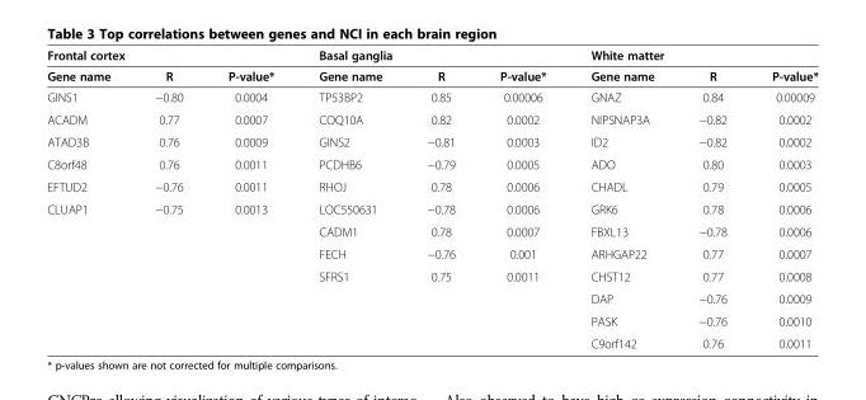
<table><thead><tr><td colspan="3">Frontal cortex</td><td colspan="3">Basal ganglia</td><td colspan="3">White matter</td></tr><tr><td>Gene name</td><td>R</td><td>P-value*</td><td>Gene name</td><td>R</td><td>P-value*</td><td>Gene name</td><td>R</td><td>P-value*</td></tr></thead><tbody><tr><td>GINS1</td><td>−0.80</td><td>0.0004</td><td>TP53BP2</td><td>0.85</td><td>0.00006</td><td>GNAZ</td><td>0.84</td><td>0.00009</td></tr><tr><td>ACADM</td><td>0.77</td><td>0.0007</td><td>COQ10A</td><td>0.82</td><td>0.0002</td><td>NIPSNAP3A</td><td>−0.82</td><td>0.0002</td></tr><tr><td>ATAD3B</td><td>0.76</td><td>0.0009</td><td>GINS2</td><td>−0.81</td><td>0.0003</td><td>ID2</td><td>−0.82</td><td>0.0002</td></tr><tr><td>C8orf48</td><td>0.76</td><td>0.0011</td><td>PCDHB6</td><td>−0.79</td><td>0.0005</td><td>ADO</td><td>0.80</td><td>0.0003</td></tr><tr><td>EFTUD2</td><td>−0.76</td><td>0.0011</td><td>RHOJ</td><td>0.78</td><td>0.0006</td><td>CHADL</td><td>0.79</td><td>0.0005</td></tr><tr><td rowspan="7">CLUAP1</td><td>−0.75</td><td>0.0013</td><td>LOC550631</td><td>−0.78</td><td>0.0006</td><td>GRK6</td><td>0.78</td><td>0.0006</td></tr><tr><td></td><td></td><td>CADM1</td><td>0.78</td><td>0.0007</td><td>FBXL13</td><td>−0.78</td><td>0.0006</td></tr><tr><td></td><td></td><td>FECH</td><td>−0.76</td><td>0.001</td><td>ARHGAP22</td><td>0.77</td><td>0.0007</td></tr><tr><td></td><td></td><td>SFRS1</td><td>0.75</td><td>0.0011</td><td>CHST12</td><td>0.77</td><td>0.0008</td></tr><tr><td></td><td></td><td></td><td></td><td></td><td>DAP</td><td>−0.76</td><td>0.0009</td></tr><tr><td></td><td></td><td></td><td></td><td></td><td>PASK</td><td>−0.76</td><td>0.0010</td></tr><tr><td></td><td></td><td></td><td></td><td></td><td>C9orf142</td><td>0.76</td><td>0.0011</td></tr></tbody></table>